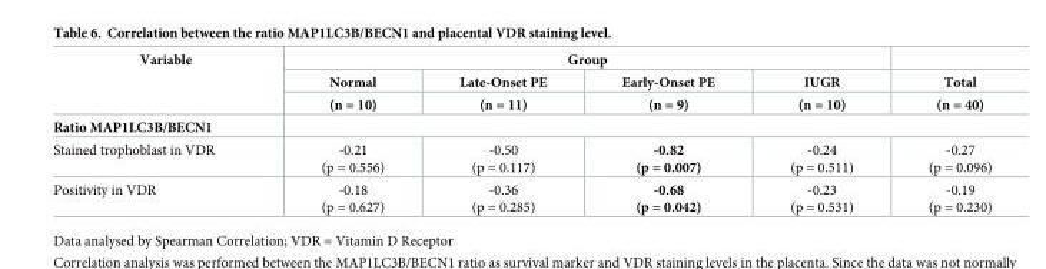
<table><thead><tr><td rowspan="3">Variable</td><td colspan="4">Group</td><td rowspan="3">Total (n = 40)</td></tr><tr><td rowspan="2">Normal (n = 10)</td><td rowspan="2">Late-Onset PE (n = 11)</td><td rowspan="2">Early-Onset PE (n = 9)</td><td rowspan="2">IUGR (n = 10)</td></tr><tr></tr></thead><tbody><tr><td colspan="6">Ratio MAP1LC3B/BECN1</td></tr><tr><td>Stained trophoblast in VDR</td><td>-0.21 (p = 0.556)</td><td>-0.50 (p = 0.117)</td><td>-0.82 (p = 0.007)</td><td>-0.24 (p = 0.511)</td><td>-0.27 (p = 0.096)</td></tr><tr><td>Positivity in VDR</td><td>-0.18 (p = 0.627)</td><td>-0.36 (p = 0.285)</td><td>-0.68 (p = 0.042)</td><td>-0.23 (p = 0.531)</td><td>-0.19 (p = 0.230)</td></tr></tbody></table>